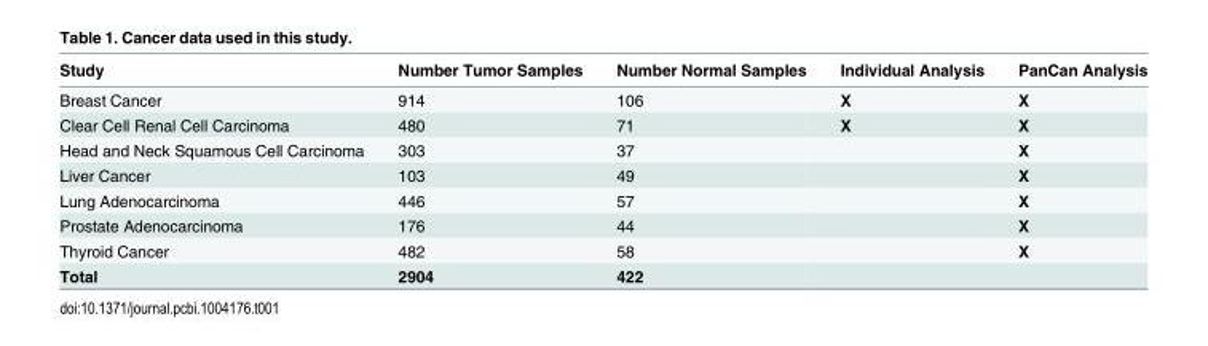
<table><thead><tr><td>Study</td><td>Number Tumor Samples</td><td>Number Normal Samples</td><td>Individual Analysis</td><td>PanCan Analysis</td></tr></thead><tbody><tr><td>Breast Cancer</td><td>914</td><td>106</td><td>X</td><td>X</td></tr><tr><td>Clear Cell Renal Cell Carcinoma</td><td>480</td><td>71</td><td>X</td><td>X</td></tr><tr><td>Head and Neck Squamous Cell Carcinoma</td><td>303</td><td>37</td><td></td><td>X</td></tr><tr><td>Liver Cancer</td><td>103</td><td>49</td><td></td><td>X</td></tr><tr><td>Lung Adenocarcinoma</td><td>446</td><td>57</td><td></td><td>X</td></tr><tr><td>Prostate Adenocarcinoma</td><td>176</td><td>44</td><td></td><td>X</td></tr><tr><td>Thyroid Cancer</td><td>482</td><td>58</td><td></td><td>X</td></tr><tr><td>Total</td><td>2904</td><td>422</td><td></td><td></td></tr></tbody></table>